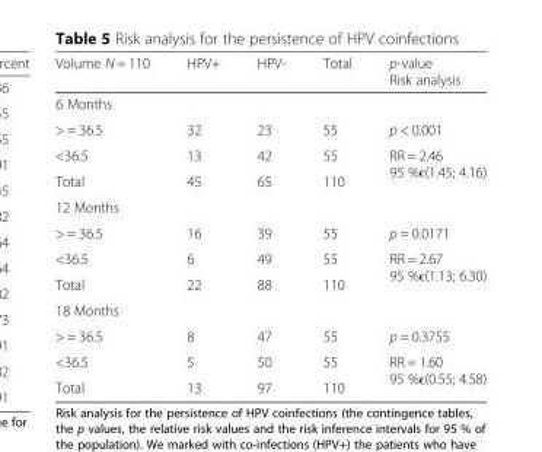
<table><thead><tr><td>Volume N = 110</td><td>HPV+</td><td>HPV-</td><td>Total</td><td>p-value Risk analysis</td></tr></thead><tbody><tr><td colspan="5">6 Months</td></tr><tr><td>&gt; = 36.5</td><td>32</td><td>23</td><td>55</td><td>p &lt; 0.001</td></tr><tr><td>&lt;36.5</td><td>13</td><td>42</td><td>55</td><td rowspan="2">RR = 2.46 95 %ϵ(1.45; 4.16)</td></tr><tr><td>Total</td><td>45</td><td>65</td><td>110</td></tr><tr><td colspan="5">12 Months</td></tr><tr><td>&gt; = 36.5</td><td>16</td><td>39</td><td>55</td><td>p = 0.0171</td></tr><tr><td>&lt;36.5</td><td>6</td><td>49</td><td>55</td><td rowspan="2">RR = 2.67 95 %ϵ(1.13; 6.30)</td></tr><tr><td>Total</td><td>22</td><td>88</td><td>110</td></tr><tr><td colspan="5">18 Months</td></tr><tr><td>&gt; = 36.5</td><td>8</td><td>47</td><td>55</td><td>p = 0.3755</td></tr><tr><td>&lt;36.5</td><td>5</td><td>50</td><td>55</td><td rowspan="2">RR = 1.60 95 %ϵ(0.55; 4.58)</td></tr><tr><td>Total</td><td>13</td><td>97</td><td>110</td></tr></tbody></table>